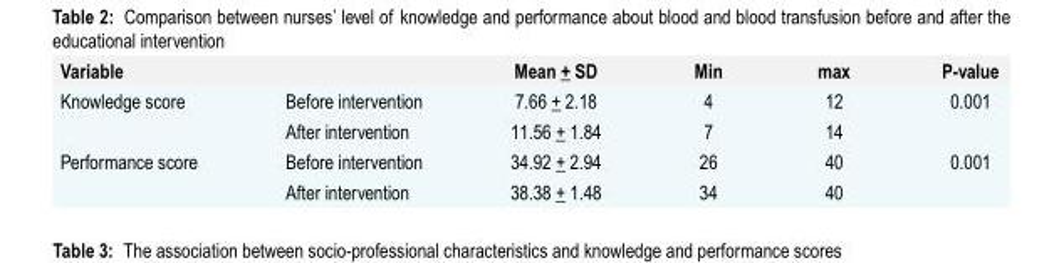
<table><thead><tr><td>Variable</td><td></td><td>Mean + SD</td><td>Min</td><td>max</td><td>P-value</td></tr></thead><tbody><tr><td rowspan="2">Knowledge score</td><td>Before intervention</td><td>7.66 + 2.18</td><td>4</td><td>12</td><td>0.001</td></tr><tr><td>After intervention</td><td>11.56 + 1.84</td><td>7</td><td>14</td><td></td></tr><tr><td rowspan="2">Performance score</td><td>Before intervention</td><td>34.92 + 2.94</td><td>26</td><td>40</td><td>0.001</td></tr><tr><td>After intervention</td><td>38.38 + 1.48</td><td>34</td><td>40</td><td></td></tr></tbody></table>